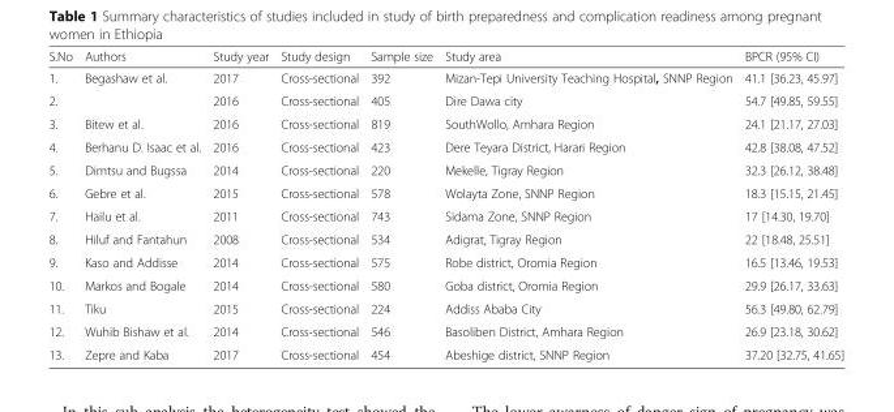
<table><thead><tr><td>S.No</td><td>Authors</td><td>Study year</td><td>Study design</td><td>Sample size</td><td>Study area</td><td>BPCR (95% CI)</td></tr></thead><tbody><tr><td>1.</td><td>Begashaw et al.</td><td>2017</td><td>Cross-sectional</td><td>392</td><td>Mizan-Tepi University Teaching Hospital, SNNP Region</td><td>41.1 [36.23, 45.97]</td></tr><tr><td>2.</td><td></td><td>2016</td><td>Cross-sectional</td><td>405</td><td>Dire Dawa city</td><td>54.7 [49.85, 59.55]</td></tr><tr><td>3.</td><td>Bitew et al.</td><td>2016</td><td>Cross-sectional</td><td>819</td><td>SouthWollo, Amhara Region</td><td>24.1 [21.17, 27.03]</td></tr><tr><td>4.</td><td>Berhanu D. Isaac et al.</td><td>2016</td><td>Cross-sectional</td><td>423</td><td>Dere Teyara District, Harari Region</td><td>42.8 [38.08, 47.52]</td></tr><tr><td>5.</td><td>Dimtsu and Bugssa</td><td>2014</td><td>Cross-sectional</td><td>220</td><td>Mekelle, Tigray Region</td><td>32.3 [26.12, 38.48]</td></tr><tr><td>6.</td><td>Gebre et al.</td><td>2015</td><td>Cross-sectional</td><td>578</td><td>Wolayta Zone, SNNP Region</td><td>18.3 [15.15, 21.45]</td></tr><tr><td>7.</td><td>Hailu et al.</td><td>2011</td><td>Cross-sectional</td><td>743</td><td>Sidama Zone, SNNP Region</td><td>17 [14.30, 19.70]</td></tr><tr><td>8.</td><td>Hiluf and Fantahun</td><td>2008</td><td>Cross-sectional</td><td>534</td><td>Adigrat, Tigray Region</td><td>22 [18.48, 25.51]</td></tr><tr><td>9.</td><td>Kaso and Addisse</td><td>2014</td><td>Cross-sectional</td><td>575</td><td>Robe district, Oromia Region</td><td>16.5 [13.46, 19.53]</td></tr><tr><td>10.</td><td>Markos and Bogale</td><td>2014</td><td>Cross-sectional</td><td>580</td><td>Goba district, Oromia Region</td><td>29.9 [26.17, 33.63]</td></tr><tr><td>11.</td><td>Tiku</td><td>2015</td><td>Cross-sectional</td><td>224</td><td>Addiss Ababa City</td><td>56.3 [49.80, 62.79]</td></tr><tr><td>12.</td><td>Wuhib Bishaw et al.</td><td>2014</td><td>Cross-sectional</td><td>546</td><td>Basoliben District, Amhara Region</td><td>26.9 [23.18, 30.62]</td></tr><tr><td>13.</td><td>Zepre and Kaba</td><td>2017</td><td>Cross-sectional</td><td>454</td><td>Abeshige district, SNNP Region</td><td>37.20 [32.75, 41.65]</td></tr></tbody></table>